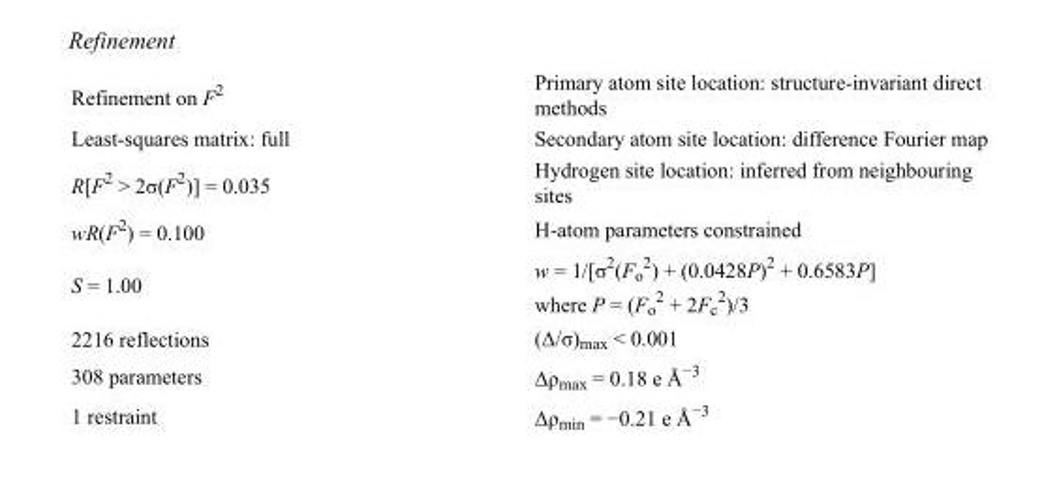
<table><tbody><tr><td>Refinement on F<sup>2</sup></td><td>Primary atom site location: structure-invariant direct methods</td></tr><tr><td>Least-squares matrix: full</td><td>Secondary atom site location: difference Fourier map</td></tr><tr><td>R[F<sup>2</sup> &gt; 2σ(F<sup>2</sup>)] = 0.035</td><td>Hydrogen site location: inferred from neighbouring sites</td></tr><tr><td>wR(F<sup>2</sup>) = 0.100</td><td>H-atom parameters constrained</td></tr><tr><td>S = 1.00</td><td>w = 1/[σ<sup>2</sup>(F<sub>o</sub> <sup>2</sup>) + (0.0428P)<sup>2</sup> + 0.6583P] where P = (F<sub>o</sub> <sup>2</sup> + 2F<sub>c</sub> <sup>2</sup>)/3</td></tr><tr><td>2216 reflections</td><td>(Δ/σ)<sub>max</sub> &lt; 0.001</td></tr><tr><td>308 parameters</td><td>Δρ<sub>max</sub> = 0.18 e Å<sup>−3</sup></td></tr><tr><td>1 restraint</td><td>Δρ<sub>min</sub> = −0.21 e Å<sup>−3</sup></td></tr></tbody></table>